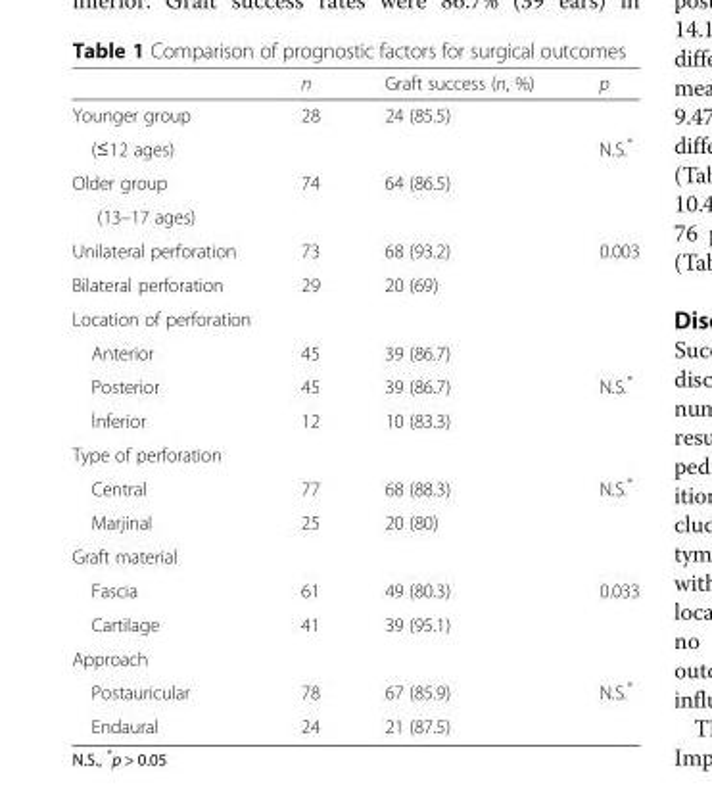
<table><thead><tr><td></td><td>n</td><td>Graft success (n, %)</td><td>p</td></tr></thead><tbody><tr><td>Younger group</td><td>28</td><td>24 (85.5)</td><td></td></tr><tr><td>(≤12 ages)</td><td></td><td></td><td>N.S.*</td></tr><tr><td>Older group</td><td>74</td><td>64 (86.5)</td><td></td></tr><tr><td colspan="4">(13–17 ages)</td></tr><tr><td>Unilateral perforation</td><td>73</td><td>68 (93.2)</td><td>0.003</td></tr><tr><td>Bilateral perforation</td><td>29</td><td>20 (69)</td><td></td></tr><tr><td colspan="4">Location of perforation</td></tr><tr><td>Anterior</td><td>45</td><td>39 (86.7)</td><td></td></tr><tr><td>Posterior</td><td>45</td><td>39 (86.7)</td><td>N.S.*</td></tr><tr><td>İnferior</td><td>12</td><td>10 (83.3)</td><td></td></tr><tr><td colspan="4">Type of perforation</td></tr><tr><td>Central</td><td>77</td><td>68 (88.3)</td><td>N.S.*</td></tr><tr><td>Marjinal</td><td>25</td><td>20 (80)</td><td></td></tr><tr><td colspan="4">Graft material</td></tr><tr><td>Fascia</td><td>61</td><td>49 (80.3)</td><td>0.033</td></tr><tr><td>Cartilage</td><td>41</td><td>39 (95.1)</td><td></td></tr><tr><td colspan="4">Approach</td></tr><tr><td>Postauricular</td><td>78</td><td>67 (85.9)</td><td>N.S.*</td></tr><tr><td>Endaural</td><td>24</td><td>21 (87.5)</td><td></td></tr></tbody></table>